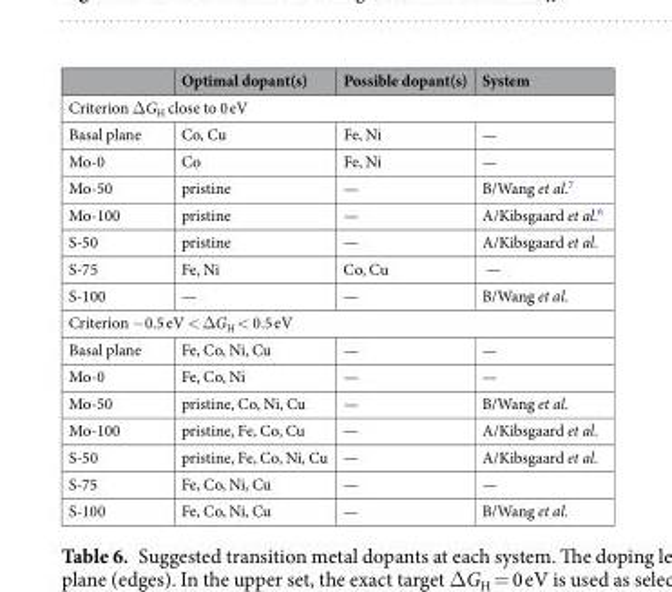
<table><thead><tr><td></td><td>Optimal dopant(s)</td><td>Possible dopant(s)</td><td>System</td></tr></thead><tbody><tr><td colspan="4">Criterion ΔG<sub>H</sub> close to 0 eV</td></tr><tr><td>Basal plane</td><td>Co, Cu</td><td>Fe, Ni</td><td>—</td></tr><tr><td>Mo-0</td><td>Co</td><td>Fe, Ni</td><td>—</td></tr><tr><td>Mo-50</td><td>pristine</td><td>—</td><td>B/Wang et al.<sup>7</sup></td></tr><tr><td>Mo-100</td><td>pristine</td><td>—</td><td>A/Kibsgaard et al.<sup>6</sup></td></tr><tr><td>S-50</td><td>pristine</td><td>—</td><td>A/Kibsgaard et al.</td></tr><tr><td>S-75</td><td>Fe, Ni</td><td>Co, Cu</td><td>—</td></tr><tr><td>S-100</td><td>—</td><td>—</td><td>B/Wang et al.</td></tr><tr><td colspan="4">Criterion −0.5 eV &lt; ΔG<sub>H</sub> &lt; 0.5 eV</td></tr><tr><td>Basal plane</td><td>Fe, Co, Ni, Cu</td><td>—</td><td>—</td></tr><tr><td>Mo-0</td><td>Fe, Co, Ni</td><td>—</td><td>—</td></tr><tr><td>Mo-50</td><td>pristine, Co, Ni, Cu</td><td>—</td><td>B/Wang et al.</td></tr><tr><td>Mo-100</td><td>pristine, Fe, Co, Cu</td><td>—</td><td>A/Kibsgaard et al.</td></tr><tr><td>S-50</td><td>pristine, Fe, Co, Ni, Cu</td><td>—</td><td>A/Kibsgaard et al.</td></tr><tr><td>S-75</td><td>Fe, Co, Ni, Cu</td><td>—</td><td>—</td></tr><tr><td>S-100</td><td>Fe, Co, Ni, Cu</td><td>—</td><td>B/Wang et al.</td></tr></tbody></table>